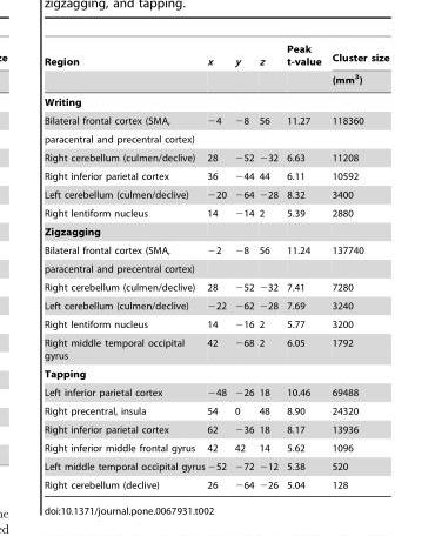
<table><thead><tr><td rowspan="2">Region</td><td rowspan="2">x</td><td rowspan="2">y</td><td rowspan="2">z</td><td rowspan="2">Peak t-value</td><td rowspan="2">Cluster size (mm<sup>3</sup>)</td></tr><tr></tr></thead><tbody><tr><td colspan="6">Writing</td></tr><tr><td>Bilateral frontal cortex (SMA,</td><td>−4</td><td>−8</td><td>56</td><td>11.27</td><td>118360</td></tr><tr><td colspan="6">paracentral and precentral cortex)</td></tr><tr><td>Right cerebellum (culmen/declive)</td><td>28</td><td>−52</td><td>−32</td><td>6.63</td><td>11208</td></tr><tr><td>Right inferior parietal cortex</td><td>36</td><td>−44</td><td>44</td><td>6.11</td><td>10592</td></tr><tr><td>Left cerebellum (culmen/declive)</td><td>−20</td><td>−64</td><td>−28</td><td>8.32</td><td>3400</td></tr><tr><td>Right lentiform nucleus</td><td>14</td><td>−14</td><td>2</td><td>5.39</td><td>2880</td></tr><tr><td colspan="6">Zigzagging</td></tr><tr><td>Bilateral frontal cortex (SMA,</td><td>−2</td><td>−8</td><td>56</td><td>11.24</td><td>137740</td></tr><tr><td colspan="6">paracentral and precentral cortex)</td></tr><tr><td>Right cerebellum (culmen/declive)</td><td>28</td><td>−52</td><td>−32</td><td>7.41</td><td>7280</td></tr><tr><td>Left cerebellum (culmen/declive)</td><td>−22</td><td>−62</td><td>−28</td><td>7.69</td><td>3240</td></tr><tr><td>Right lentiform nucleus</td><td>14</td><td>−16</td><td>2</td><td>5.77</td><td>3200</td></tr><tr><td>Right middle temporal occipital gyrus</td><td>42</td><td>−68</td><td>2</td><td>6.05</td><td>1792</td></tr><tr><td colspan="6">Tapping</td></tr><tr><td>Left inferior parietal cortex</td><td>−48</td><td>−26</td><td>18</td><td>10.46</td><td>69488</td></tr><tr><td>Right precentral, insula</td><td>54</td><td>0</td><td>48</td><td>8.90</td><td>24320</td></tr><tr><td>Right inferior parietal cortex</td><td>62</td><td>−36</td><td>18</td><td>8.17</td><td>13936</td></tr><tr><td>Right inferior middle frontal gyrus</td><td>42</td><td>42</td><td>14</td><td>5.62</td><td>1096</td></tr><tr><td>Left middle temporal occipital gyrus</td><td>−52</td><td>−72</td><td>−12</td><td>5.38</td><td>520</td></tr><tr><td>Right cerebellum (declive)</td><td>26</td><td>−64</td><td>−26</td><td>5.04</td><td>128</td></tr></tbody></table>